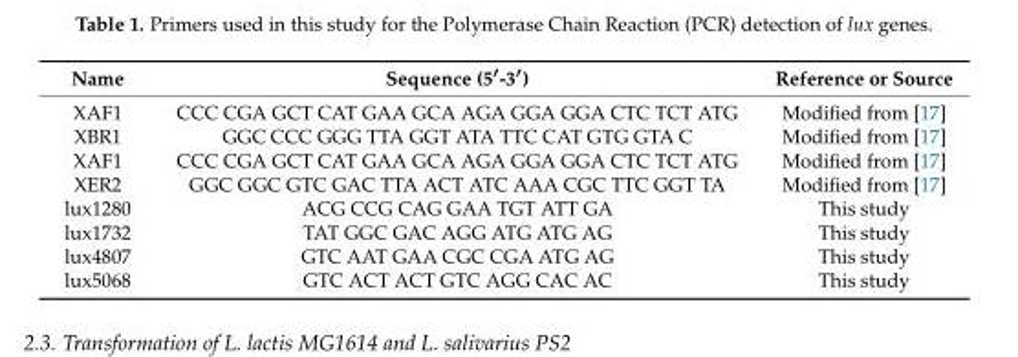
<table><thead><tr><td>Name</td><td>Sequence (5′-3′)</td><td>Reference or Source</td></tr></thead><tbody><tr><td>XAF1</td><td>CCC CGA GCT CAT GAA GCA AGA GGA GGA CTC TCT ATG</td><td>Modified from [17]</td></tr><tr><td>XBR1</td><td>GGC CCC GGG TTA GGT ATA TTC CAT GTG GTA C</td><td>Modified from [17]</td></tr><tr><td>XAF1</td><td>CCC CGA GCT CAT GAA GCA AGA GGA GGA CTC TCT ATG</td><td>Modified from [17]</td></tr><tr><td>XER2</td><td>GGC GGC GTC GAC TTA ACT ATC AAA CGC TTC GGT TA</td><td>Modified from [17]</td></tr><tr><td>lux1280</td><td>ACG CCG CAG GAA TGT ATT GA</td><td>This study</td></tr><tr><td>lux1732</td><td>TAT GGC GAC AGG ATG ATG AG</td><td>This study</td></tr><tr><td>lux4807</td><td>GTC AAT GAA CGC CGA ATG AG</td><td>This study</td></tr><tr><td>lux5068</td><td>GTC ACT ACT GTC AGG CAC AC</td><td>This study</td></tr></tbody></table>